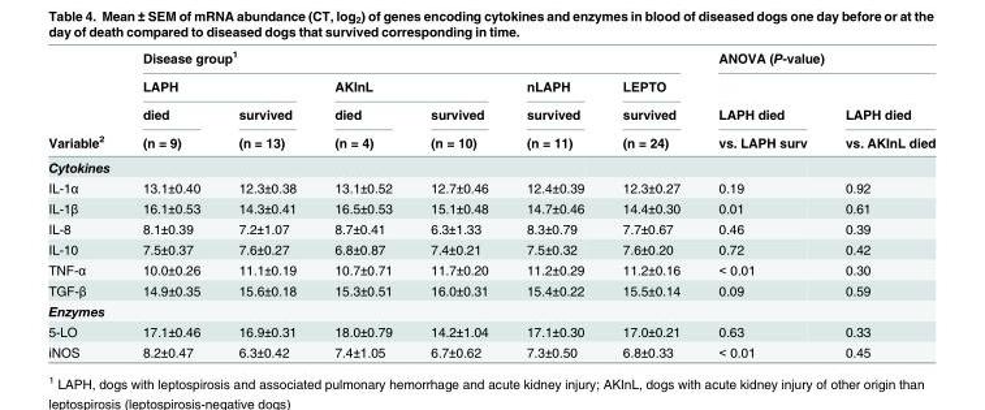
<table><thead><tr><td rowspan="4">Variable<sup>2</sup></td><td colspan="6">Disease group<sup>1</sup></td><td colspan="2">ANOVA (P-value)</td></tr><tr><td colspan="2">LAPH</td><td colspan="2">AKInL</td><td rowspan="3">nLAPH survived (n = 11)</td><td rowspan="3">LEPTO survived (n = 24)</td><td rowspan="3">LAPH died vs. LAPH surv</td><td rowspan="3">LAPH died vs. AKInL died</td></tr><tr><td rowspan="2">died (n = 9)</td><td rowspan="2">survived (n = 13)</td><td rowspan="2">died (n = 4)</td><td rowspan="2">survived (n = 10)</td></tr><tr></tr></thead><tbody><tr><td colspan="9">Cytokines</td></tr><tr><td>IL-1α</td><td>13.1±0.40</td><td>12.3±0.38</td><td>13.1±0.52</td><td>12.7±0.46</td><td>12.4±0.39</td><td>12.3±0.27</td><td>0.19</td><td>0.92</td></tr><tr><td>IL-1β</td><td>16.1±0.53</td><td>14.3±0.41</td><td>16.5±0.53</td><td>15.1±0.48</td><td>14.7±0.46</td><td>14.4±0.30</td><td>0.01</td><td>0.61</td></tr><tr><td>IL-8</td><td>8.1±0.39</td><td>7.2±1.07</td><td>8.7±0.41</td><td>6.3±1.33</td><td>8.3±0.79</td><td>7.7±0.67</td><td>0.46</td><td>0.39</td></tr><tr><td>IL-10</td><td>7.5±0.37</td><td>7.6±0.27</td><td>6.8±0.87</td><td>7.4±0.21</td><td>7.5±0.32</td><td>7.6±0.20</td><td>0.72</td><td>0.42</td></tr><tr><td>TNF-α</td><td>10.0±0.26</td><td>11.1±0.19</td><td>10.7±0.71</td><td>11.7±0.20</td><td>11.2±0.29</td><td>11.2±0.16</td><td>&lt; 0.01</td><td>0.30</td></tr><tr><td>TGF-β</td><td>14.9±0.35</td><td>15.6±0.18</td><td>15.3±0.51</td><td>16.0±0.31</td><td>15.4±0.22</td><td>15.5±0.14</td><td>0.09</td><td>0.59</td></tr><tr><td colspan="9">Enzymes</td></tr><tr><td>5-LO</td><td>17.1±0.46</td><td>16.9±0.31</td><td>18.0±0.79</td><td>14.2±1.04</td><td>17.1±0.30</td><td>17.0±0.21</td><td>0.63</td><td>0.33</td></tr><tr><td>iNOS</td><td>8.2±0.47</td><td>6.3±0.42</td><td>7.4±1.05</td><td>6.7±0.62</td><td>7.3±0.50</td><td>6.8±0.33</td><td>&lt; 0.01</td><td>0.45</td></tr></tbody></table>